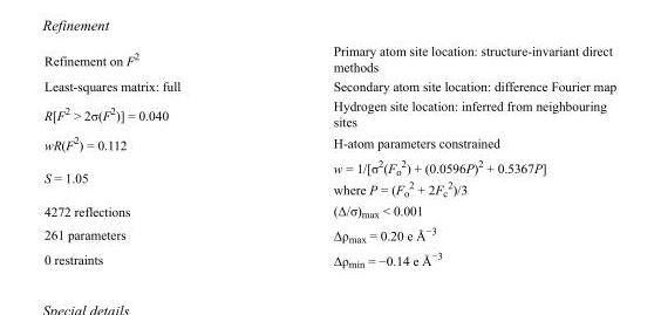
<table><tbody><tr><td>Refinement on F<sup>2</sup></td><td>Primary atom site location: structure-invariant direct methods</td></tr><tr><td>Least-squares matrix: full</td><td>Secondary atom site location: difference Fourier map</td></tr><tr><td>R[F<sup>2</sup> &gt; 2σ(F<sup>2</sup>)] = 0.040</td><td>Hydrogen site location: inferred from neighbouring sites</td></tr><tr><td>wR(F<sup>2</sup>) = 0.112</td><td>H-atom parameters constrained</td></tr><tr><td>S = 1.05</td><td>w = 1/[σ<sup>2</sup>(F<sub>o</sub> <sup>2</sup>) + (0.0596P)<sup>2</sup> + 0.5367P] where P = (F<sub>o</sub> <sup>2</sup> + 2F<sub>c</sub> <sup>2</sup>)/3</td></tr><tr><td>4272 reflections</td><td>(Δ/σ)<sub>max</sub> &lt; 0.001</td></tr><tr><td>261 parameters</td><td>Δρ<sub>max</sub> = 0.20 e Å<sup>−3</sup></td></tr><tr><td>0 restraints</td><td>Δρ<sub>min</sub> = −0.14 e Å<sup>−3</sup></td></tr></tbody></table>